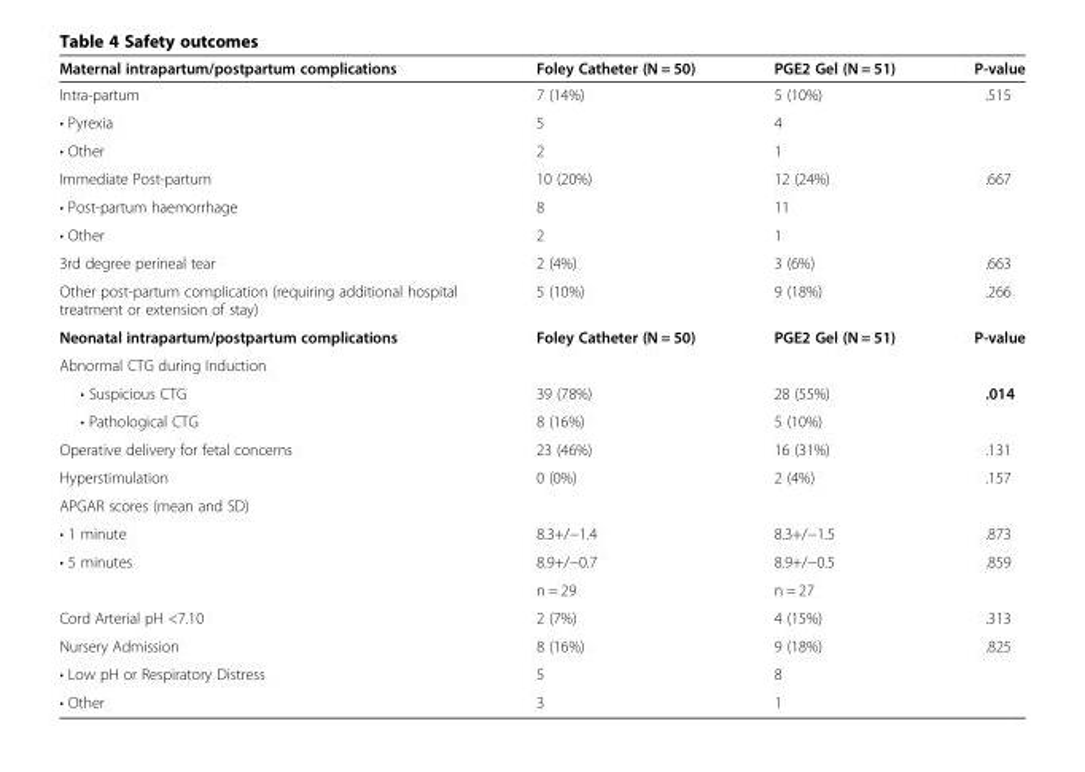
<table><thead><tr><td>Maternal intrapartum/postpartum complications</td><td>Foley Catheter (N = 50)</td><td>PGE2 Gel (N = 51)</td><td>P-value</td></tr></thead><tbody><tr><td>Intra-partum</td><td>7 (14%)</td><td>5 (10%)</td><td>.515</td></tr><tr><td>• Pyrexia</td><td>5</td><td>4</td><td></td></tr><tr><td>• Other</td><td>2</td><td>1</td><td></td></tr><tr><td>Immediate Post-partum</td><td>10 (20%)</td><td>12 (24%)</td><td>.667</td></tr><tr><td>• Post-partum haemorrhage</td><td>8</td><td>11</td><td></td></tr><tr><td>• Other</td><td>2</td><td>1</td><td></td></tr><tr><td>3rd degree perineal tear</td><td>2 (4%)</td><td>3 (6%)</td><td>.663</td></tr><tr><td>Other post-partum complication (requiring additional hospital treatment or extension of stay)</td><td>5 (10%)</td><td>9 (18%)</td><td>.266</td></tr><tr><td>Neonatal intrapartum/postpartum complications</td><td>Foley Catheter (N = 50)</td><td>PGE2 Gel (N = 51)</td><td>P-value</td></tr><tr><td colspan="4">Abnormal CTG during Induction</td></tr><tr><td>• Suspicious CTG</td><td>39 (78%)</td><td>28 (55%)</td><td>.014</td></tr><tr><td>• Pathological CTG</td><td>8 (16%)</td><td>5 (10%)</td><td></td></tr><tr><td>Operative delivery for fetal concerns</td><td>23 (46%)</td><td>16 (31%)</td><td>.131</td></tr><tr><td>Hyperstimulation</td><td>0 (0%)</td><td>2 (4%)</td><td>.157</td></tr><tr><td colspan="4">APGAR scores (mean and SD)</td></tr><tr><td>• 1 minute</td><td>8.3+/−1.4</td><td>8.3+/−1.5</td><td>.873</td></tr><tr><td>• 5 minutes</td><td>8.9+/−0.7</td><td>8.9+/−0.5</td><td>.859</td></tr><tr><td rowspan="2">Cord Arterial pH &lt;7.10</td><td>n = 29</td><td>n = 27</td><td></td></tr><tr><td>2 (7%)</td><td>4 (15%)</td><td>.313</td></tr><tr><td>Nursery Admission</td><td>8 (16%)</td><td>9 (18%)</td><td>.825</td></tr><tr><td>• Low pH or Respiratory Distress</td><td>5</td><td>8</td><td></td></tr><tr><td>• Other</td><td>3</td><td>1</td><td></td></tr></tbody></table>